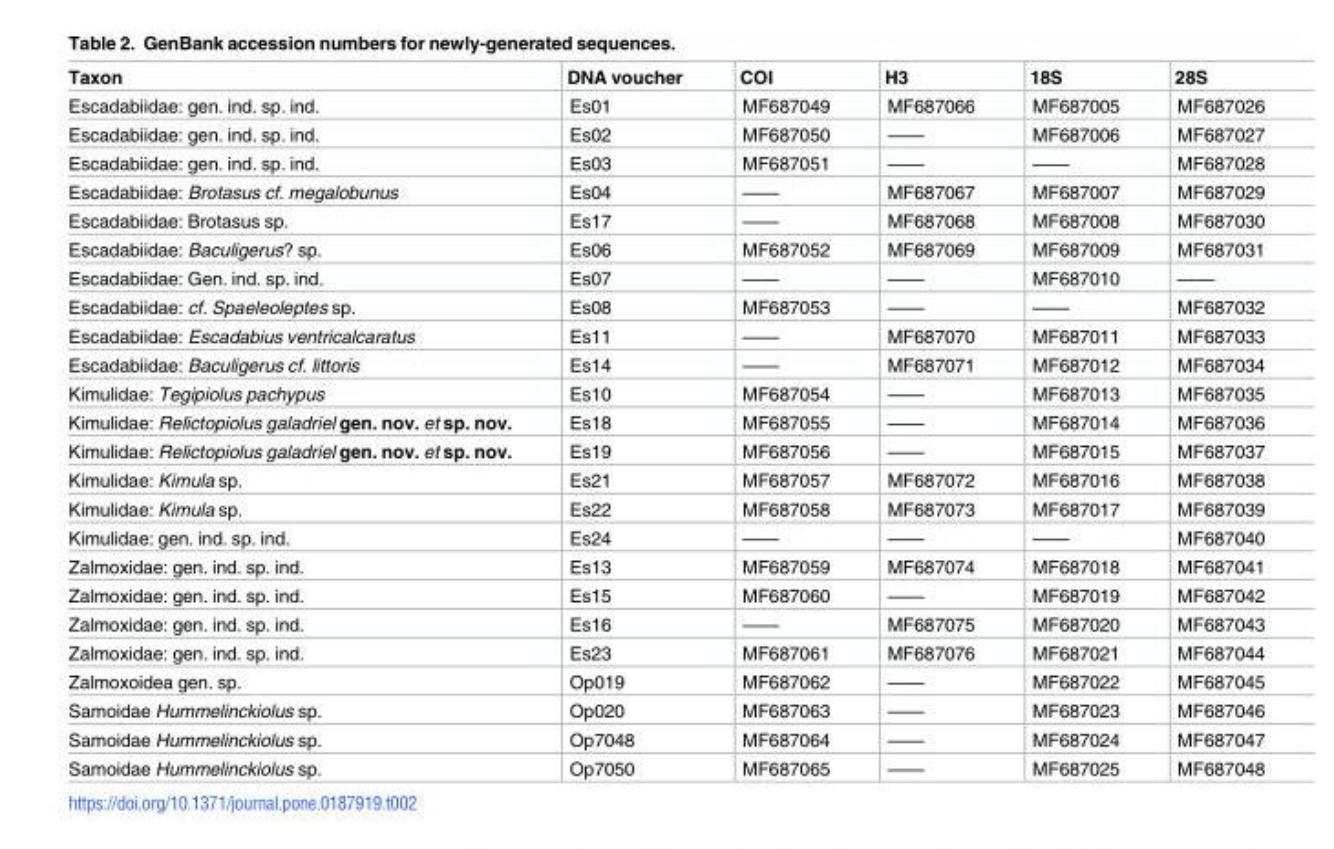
<table><thead><tr><td>Taxon</td><td>DNA voucher</td><td>COI</td><td>H3</td><td>18S</td><td>28S</td></tr></thead><tbody><tr><td>Escadabiidae: gen. ind. sp. ind.</td><td>Es01</td><td>MF687049</td><td>MF687066</td><td>MF687005</td><td>MF687026</td></tr><tr><td>Escadabiidae: gen. ind. sp. ind.</td><td>Es02</td><td>MF687050</td><td>——</td><td>MF687006</td><td>MF687027</td></tr><tr><td>Escadabiidae: gen. ind. sp. ind.</td><td>Es03</td><td>MF687051</td><td>——</td><td>——</td><td>MF687028</td></tr><tr><td>Escadabiidae: Brotasus cf. megalobunus</td><td>Es04</td><td>——</td><td>MF687067</td><td>MF687007</td><td>MF687029</td></tr><tr><td>Escadabiidae: Brotasus sp.</td><td>Es17</td><td>——</td><td>MF687068</td><td>MF687008</td><td>MF687030</td></tr><tr><td>Escadabiidae: Baculigerus? sp.</td><td>Es06</td><td>MF687052</td><td>MF687069</td><td>MF687009</td><td>MF687031</td></tr><tr><td>Escadabiidae: Gen. ind. sp. ind.</td><td>Es07</td><td>——</td><td>——</td><td>MF687010</td><td>——</td></tr><tr><td>Escadabiidae: cf. Spaeleoleptes sp.</td><td>Es08</td><td>MF687053</td><td>——</td><td>——</td><td>MF687032</td></tr><tr><td>Escadabiidae: Escadabius ventricalcaratus</td><td>Es11</td><td>——</td><td>MF687070</td><td>MF687011</td><td>MF687033</td></tr><tr><td>Escadabiidae: Baculigerus cf. littoris</td><td>Es14</td><td>——</td><td>MF687071</td><td>MF687012</td><td>MF687034</td></tr><tr><td>Kimulidae: Tegipiolus pachypus</td><td>Es10</td><td>MF687054</td><td>——</td><td>MF687013</td><td>MF687035</td></tr><tr><td>Kimulidae: Relictopiolus galadriel gen. nov. et sp. nov.</td><td>Es18</td><td>MF687055</td><td>——</td><td>MF687014</td><td>MF687036</td></tr><tr><td>Kimulidae: Relictopiolus galadriel gen. nov. et sp. nov.</td><td>Es19</td><td>MF687056</td><td>——</td><td>MF687015</td><td>MF687037</td></tr><tr><td>Kimulidae: Kimula sp.</td><td>Es21</td><td>MF687057</td><td>MF687072</td><td>MF687016</td><td>MF687038</td></tr><tr><td>Kimulidae: Kimula sp.</td><td>Es22</td><td>MF687058</td><td>MF687073</td><td>MF687017</td><td>MF687039</td></tr><tr><td>Kimulidae: gen. ind. sp. ind.</td><td>Es24</td><td>——</td><td>——</td><td>——</td><td>MF687040</td></tr><tr><td>Zalmoxidae: gen. ind. sp. ind.</td><td>Es13</td><td>MF687059</td><td>MF687074</td><td>MF687018</td><td>MF687041</td></tr><tr><td>Zalmoxidae: gen. ind. sp. ind.</td><td>Es15</td><td>MF687060</td><td>——</td><td>MF687019</td><td>MF687042</td></tr><tr><td>Zalmoxidae: gen. ind. sp. ind.</td><td>Es16</td><td>——</td><td>MF687075</td><td>MF687020</td><td>MF687043</td></tr><tr><td>Zalmoxidae: gen. ind. sp. ind.</td><td>Es23</td><td>MF687061</td><td>MF687076</td><td>MF687021</td><td>MF687044</td></tr><tr><td>Zalmoxoidea gen. sp.</td><td>Op019</td><td>MF687062</td><td>——</td><td>MF687022</td><td>MF687045</td></tr><tr><td>Samoidae Hummelinckiolus sp.</td><td>Op020</td><td>MF687063</td><td>——</td><td>MF687023</td><td>MF687046</td></tr><tr><td>Samoidae Hummelinckiolus sp.</td><td>Op7048</td><td>MF687064</td><td>——</td><td>MF687024</td><td>MF687047</td></tr><tr><td>Samoidae Hummelinckiolus sp.</td><td>Op7050</td><td>MF687065</td><td>——</td><td>MF687025</td><td>MF687048</td></tr></tbody></table>